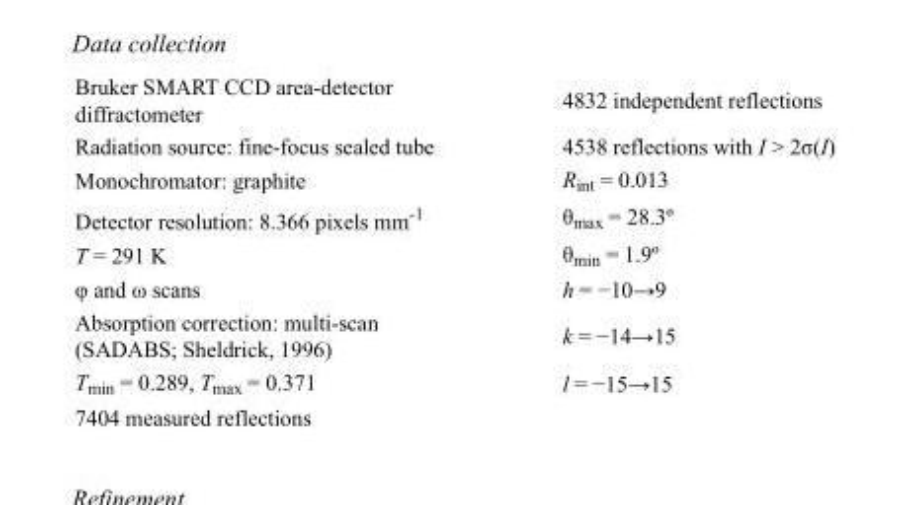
<table><tbody><tr><td>Bruker SMART CCD area-detector diffractometer</td><td>4832 independent reflections</td></tr><tr><td>Radiation source: fine-focus sealed tube</td><td>4538 reflections with I &gt; 2σ(I)</td></tr><tr><td>Monochromator: graphite</td><td>R<sub>int</sub> = 0.013</td></tr><tr><td>Detector resolution: 8.366 pixels mm<sup>-1</sup></td><td>θ<sub>max</sub> = 28.3º</td></tr><tr><td>T = 291 K</td><td>θ<sub>min</sub> = 1.9º</td></tr><tr><td>φ and ω scans</td><td>h = −10→9</td></tr><tr><td>Absorption correction: multi-scan (SADABS; Sheldrick, 1996)</td><td>k = −14→15</td></tr><tr><td>T<sub>min</sub> = 0.289, T<sub>max</sub> = 0.371</td><td>l = −15→15</td></tr><tr><td>7404 measured reflections</td><td></td></tr></tbody></table>